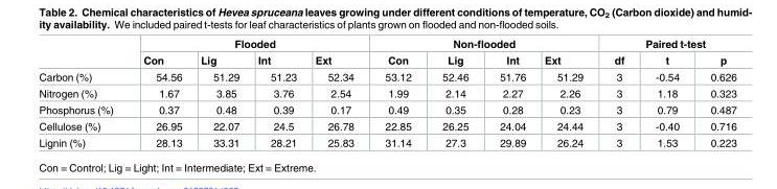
<table><thead><tr><td rowspan="2"></td><td colspan="4">Flooded</td><td colspan="4">Non-flooded</td><td colspan="3">Paired t-test</td></tr><tr><td>Con</td><td>Lig</td><td>Int</td><td>Ext</td><td>Con</td><td>Lig</td><td>Int</td><td>Ext</td><td>df</td><td>t</td><td>p</td></tr></thead><tbody><tr><td>Carbon (%)</td><td>54.56</td><td>51.29</td><td>51.23</td><td>52.34</td><td>53.12</td><td>52.46</td><td>51.76</td><td>51.29</td><td>3</td><td>-0.54</td><td>0.626</td></tr><tr><td>Nitrogen (%)</td><td>1.67</td><td>3.85</td><td>3.76</td><td>2.54</td><td>1.99</td><td>2.14</td><td>2.27</td><td>2.26</td><td>3</td><td>1.18</td><td>0.323</td></tr><tr><td>Phosphorus (%)</td><td>0.37</td><td>0.48</td><td>0.39</td><td>0.17</td><td>0.49</td><td>0.35</td><td>0.28</td><td>0.23</td><td>3</td><td>0.79</td><td>0.487</td></tr><tr><td>Cellulose (%)</td><td>26.95</td><td>22.07</td><td>24.5</td><td>26.78</td><td>22.85</td><td>26.25</td><td>24.04</td><td>24.44</td><td>3</td><td>-0.40</td><td>0.716</td></tr><tr><td>Lignin (%)</td><td>28.13</td><td>33.31</td><td>28.21</td><td>25.83</td><td>31.14</td><td>27.3</td><td>29.89</td><td>26.24</td><td>3</td><td>1.53</td><td>0.223</td></tr></tbody></table>